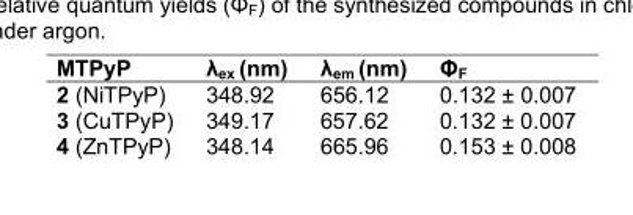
<table><thead><tr><td>MTPyP</td><td>λ<sub>ex</sub> (nm)</td><td>λ<sub>em</sub> (nm)</td><td>Φ<sub>F</sub></td></tr></thead><tbody><tr><td>2 (NiTPyP)</td><td>348.92</td><td>656.12</td><td>0.132 ± 0.007</td></tr><tr><td>3 (CuTPyP)</td><td>349.17</td><td>657.62</td><td>0.132 ± 0.007</td></tr><tr><td>4 (ZnTPyP)</td><td>348.14</td><td>665.96</td><td>0.153 ± 0.008</td></tr></tbody></table>